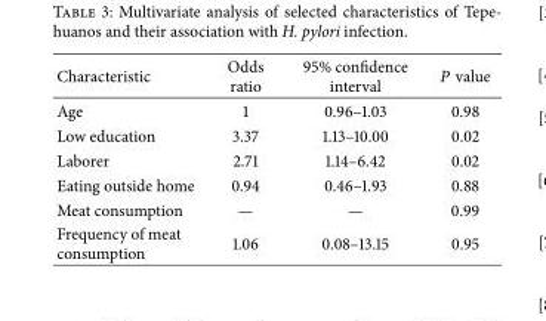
<table><thead><tr><td>Characteristic</td><td>Odds ratio</td><td>95% confidence interval</td><td>P value</td></tr></thead><tbody><tr><td>Age</td><td>1</td><td>0.96–1.03</td><td>0.98</td></tr><tr><td>Low education</td><td>3.37</td><td>1.13–10.00</td><td>0.02</td></tr><tr><td>Laborer</td><td>2.71</td><td>1.14–6.42</td><td>0.02</td></tr><tr><td>Eating outside home</td><td>0.94</td><td>0.46–1.93</td><td>0.88</td></tr><tr><td>Meat consumption</td><td>—</td><td>—</td><td>0.99</td></tr><tr><td>Frequency of meat consumption</td><td>1.06</td><td>0.08–13.15</td><td>0.95</td></tr></tbody></table>